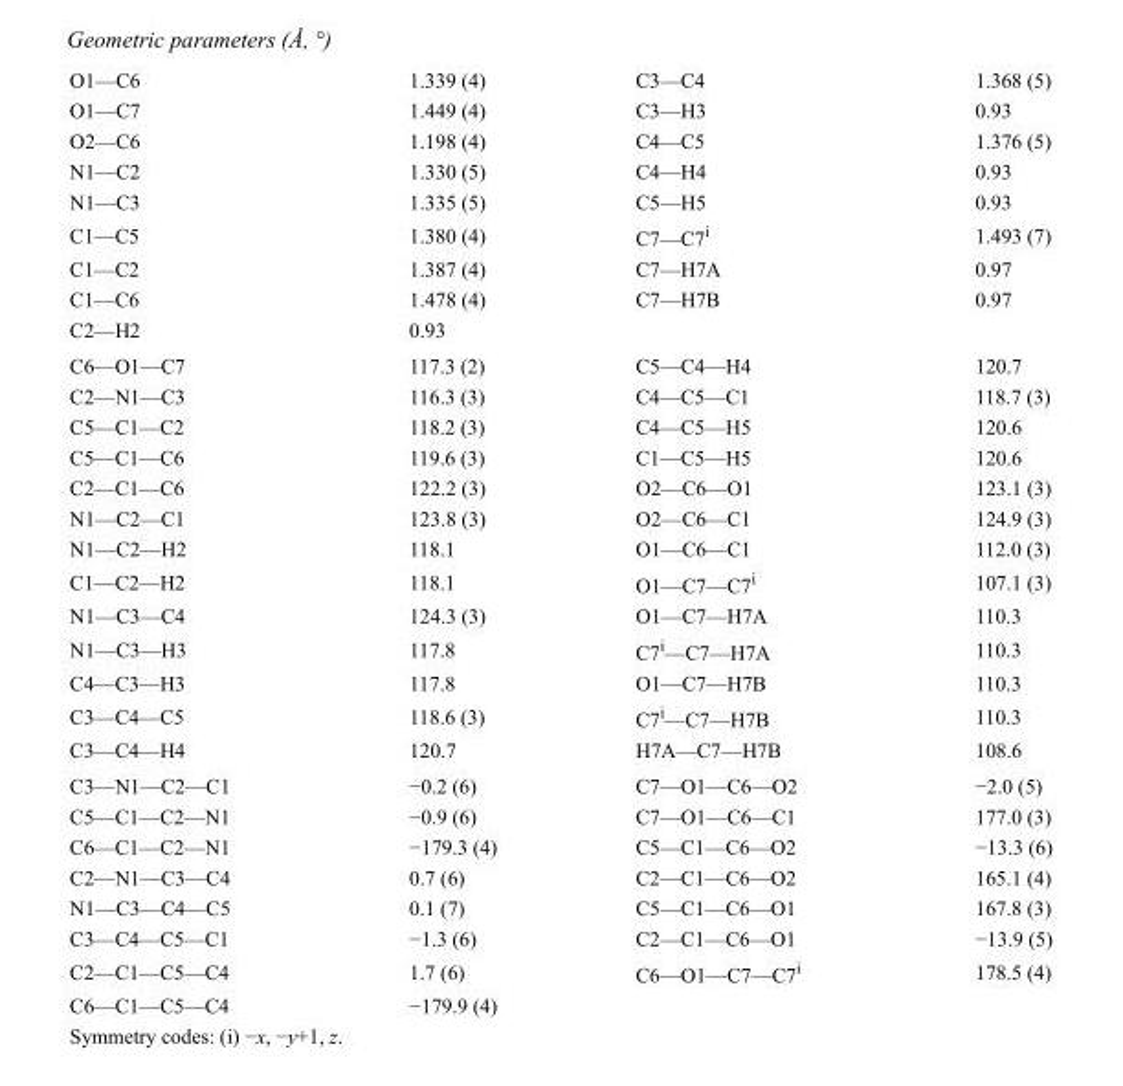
<table><tbody><tr><td>O1—C6</td><td>1.339 (4)</td><td>C3—C4</td><td>1.368 (5)</td></tr><tr><td>O1—C7</td><td>1.449 (4)</td><td>C3—H3</td><td>0.93</td></tr><tr><td>O2—C6</td><td>1.198 (4)</td><td>C4—C5</td><td>1.376 (5)</td></tr><tr><td>N1—C2</td><td>1.330 (5)</td><td>C4—H4</td><td>0.93</td></tr><tr><td>N1—C3</td><td>1.335 (5)</td><td>C5—H5</td><td>0.93</td></tr><tr><td>C1—C5</td><td>1.380 (4)</td><td>C7—C7<sup>i</sup></td><td>1.493 (7)</td></tr><tr><td>C1—C2</td><td>1.387 (4)</td><td>C7—H7A</td><td>0.97</td></tr><tr><td>C1—C6</td><td>1.478 (4)</td><td>C7—H7B</td><td>0.97</td></tr><tr><td>C2—H2</td><td>0.93</td><td></td><td></td></tr><tr><td>C6—O1—C7</td><td>117.3 (2)</td><td>C5—C4—H4</td><td>120.7</td></tr><tr><td>C2—N1—C3</td><td>116.3 (3)</td><td>C4—C5—C1</td><td>118.7 (3)</td></tr><tr><td>C5—C1—C2</td><td>118.2 (3)</td><td>C4—C5—H5</td><td>120.6</td></tr><tr><td>C5—C1—C6</td><td>119.6 (3)</td><td>C1—C5—H5</td><td>120.6</td></tr><tr><td>C2—C1—C6</td><td>122.2 (3)</td><td>O2—C6—O1</td><td>123.1 (3)</td></tr><tr><td>N1—C2—C1</td><td>123.8 (3)</td><td>O2—C6—C1</td><td>124.9 (3)</td></tr><tr><td>N1—C2—H2</td><td>118.1</td><td>O1—C6—C1</td><td>112.0 (3)</td></tr><tr><td>C1—C2—H2</td><td>118.1</td><td>O1—C7—C7<sup>i</sup></td><td>107.1 (3)</td></tr><tr><td>N1—C3—C4</td><td>124.3 (3)</td><td>O1—C7—H7A</td><td>110.3</td></tr><tr><td>N1—C3—H3</td><td>117.8</td><td>C7<sup>i</sup>—C7—H7A</td><td>110.3</td></tr><tr><td>C4—C3—H3</td><td>117.8</td><td>O1—C7—H7B</td><td>110.3</td></tr><tr><td>C3—C4—C5</td><td>118.6 (3)</td><td>C7<sup>i</sup>—C7—H7B</td><td>110.3</td></tr><tr><td>C3—C4—H4</td><td>120.7</td><td>H7A—C7—H7B</td><td>108.6</td></tr><tr><td>C3—N1—C2—C1</td><td>−0.2 (6)</td><td>C7—O1—C6—O2</td><td>−2.0 (5)</td></tr><tr><td>C5—C1—C2—N1</td><td>−0.9 (6)</td><td>C7—O1—C6—C1</td><td>177.0 (3)</td></tr><tr><td>C6—C1—C2—N1</td><td>−179.3 (4)</td><td>C5—C1—C6—O2</td><td>−13.3 (6)</td></tr><tr><td>C2—N1—C3—C4</td><td>0.7 (6)</td><td>C2—C1—C6—O2</td><td>165.1 (4)</td></tr><tr><td>N1—C3—C4—C5</td><td>0.1 (7)</td><td>C5—C1—C6—O1</td><td>167.8 (3)</td></tr><tr><td>C3—C4—C5—C1</td><td>−1.3 (6)</td><td>C2—C1—C6—O1</td><td>−13.9 (5)</td></tr><tr><td>C2—C1—C5—C4</td><td>1.7 (6)</td><td>C6—O1—C7—C7<sup>i</sup></td><td>178.5 (4)</td></tr><tr><td>C6—C1—C5—C4</td><td>−179.9 (4)</td><td></td><td></td></tr></tbody></table>